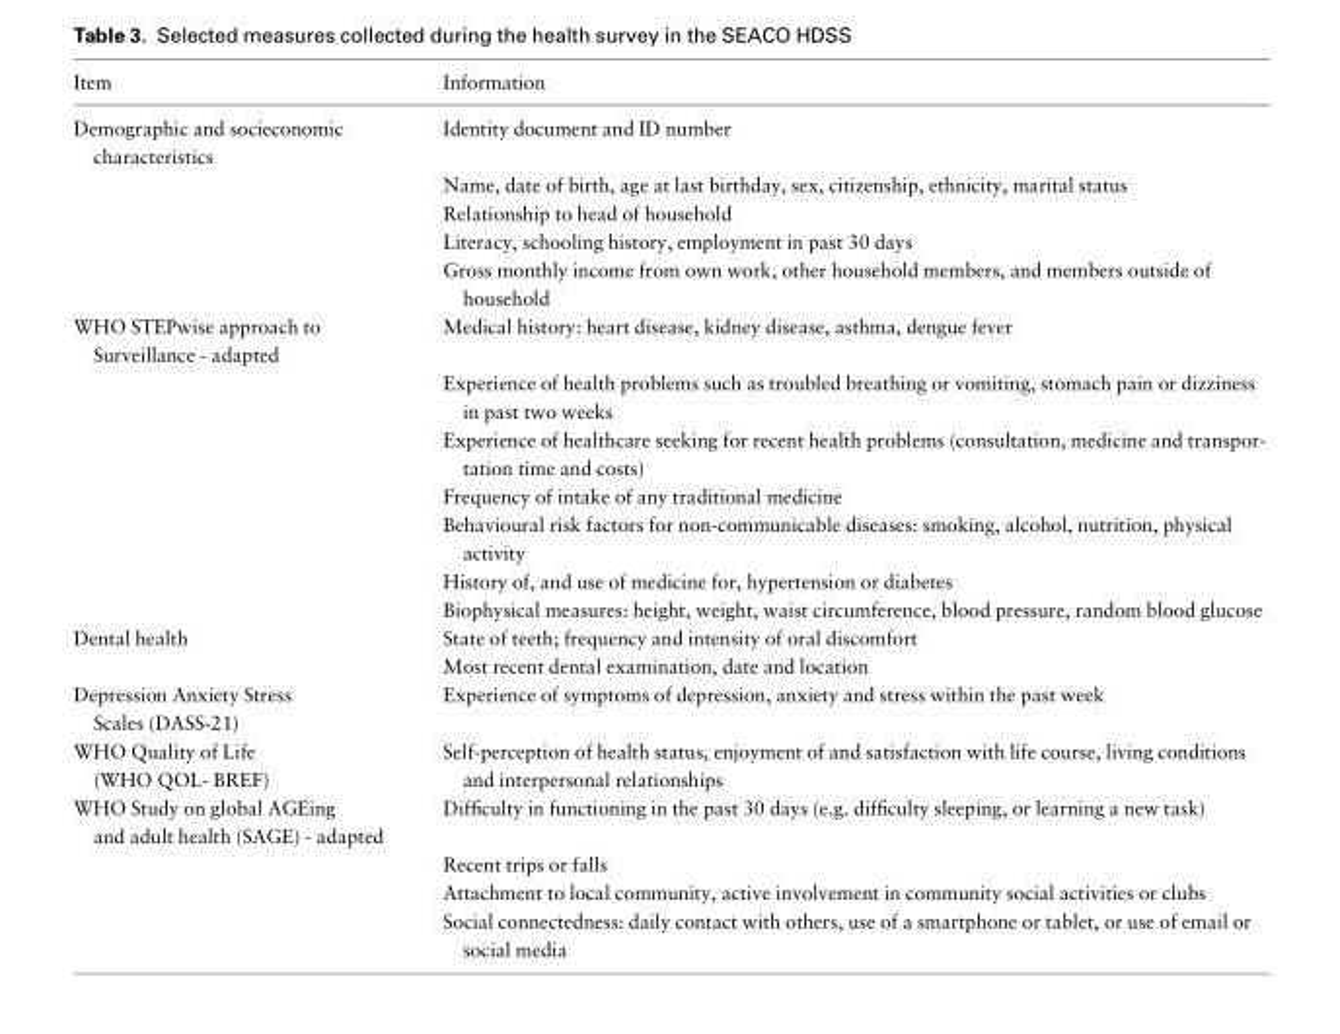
<table><thead><tr><td>Item</td><td>Information</td></tr></thead><tbody><tr><td rowspan="5">Demographic and socieconomic characteristics</td><td>Identity document and ID number</td></tr><tr><td>Name, date of birth, age at last birthday, sex, citizenship, ethnicity, marital status</td></tr><tr><td>Relationship to head of household</td></tr><tr><td>Literacy, schooling history, employment in past 30 days</td></tr><tr><td>Gross monthly income from own work, other household members, and members outside of household</td></tr><tr><td rowspan="7">WHO STEPwise approach to Surveillance - adapted</td><td>Medical history: heart disease, kidney disease, asthma, dengue fever</td></tr><tr><td>Experience of health problems such as troubled breathing or vomiting, stomach pain or dizziness in past two weeks</td></tr><tr><td>Experience of healthcare seeking for recent health problems (consultation, medicine and transpor- tation time and costs)</td></tr><tr><td>Frequency of intake of any traditional medicine</td></tr><tr><td>Behavioural risk factors for non-communicable diseases: smoking, alcohol, nutrition, physical activity</td></tr><tr><td>History of, and use of medicine for, hypertension or diabetes</td></tr><tr><td>Biophysical measures: height, weight, waist circumference, blood pressure, random blood glucose</td></tr><tr><td rowspan="2">Dental health</td><td>State of teeth; frequency and intensity of oral discomfort</td></tr><tr><td>Most recent dental examination, date and location</td></tr><tr><td>Depression Anxiety Stress Scales (DASS-21)</td><td>Experience of symptoms of depression, anxiety and stress within the past week</td></tr><tr><td>WHO Quality of Life (WHO QOL- BREF)</td><td>Self-perception of health status, enjoyment of and satisfaction with life course, living conditions and interpersonal relationships</td></tr><tr><td rowspan="4">WHO Study on global AGEing and adult health (SAGE) - adapted</td><td>Difficulty in functioning in the past 30 days (e.g. difficulty sleeping, or learning a new task)</td></tr><tr><td>Recent trips or falls</td></tr><tr><td>Attachment to local community, active involvement in community social activities or clubs</td></tr><tr><td>Social connectedness: daily contact with others, use of a smartphone or tablet, or use of email or social media</td></tr></tbody></table>